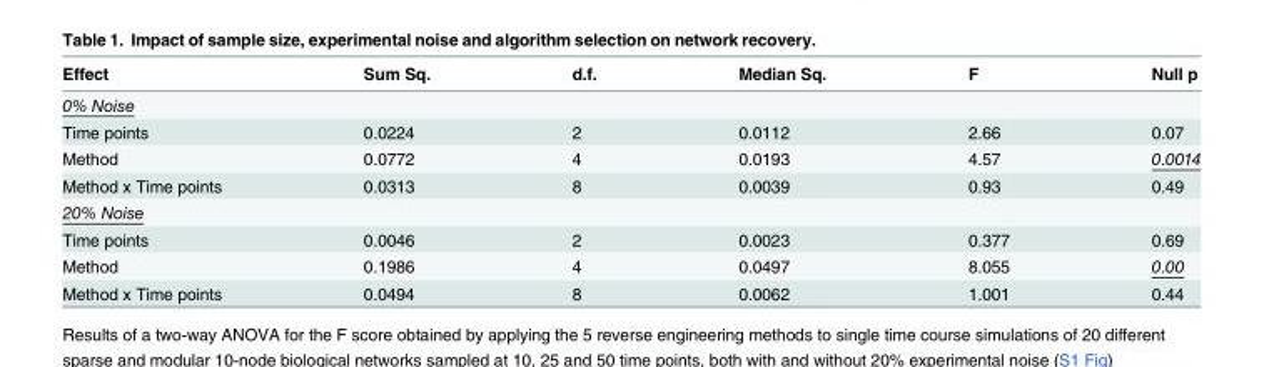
<table><thead><tr><td>Effect</td><td>Sum Sq.</td><td>d.f.</td><td>Median Sq.</td><td>F</td><td>Null p</td></tr></thead><tbody><tr><td colspan="6">0% Noise</td></tr><tr><td>Time points</td><td>0.0224</td><td>2</td><td>0.0112</td><td>2.66</td><td>0.07</td></tr><tr><td>Method</td><td>0.0772</td><td>4</td><td>0.0193</td><td>4.57</td><td>0.0014</td></tr><tr><td>Method x Time points</td><td>0.0313</td><td>8</td><td>0.0039</td><td>0.93</td><td>0.49</td></tr><tr><td colspan="6">20% Noise</td></tr><tr><td>Time points</td><td>0.0046</td><td>2</td><td>0.0023</td><td>0.377</td><td>0.69</td></tr><tr><td>Method</td><td>0.1986</td><td>4</td><td>0.0497</td><td>8.055</td><td>0.00</td></tr><tr><td>Method x Time points</td><td>0.0494</td><td>8</td><td>0.0062</td><td>1.001</td><td>0.44</td></tr></tbody></table>